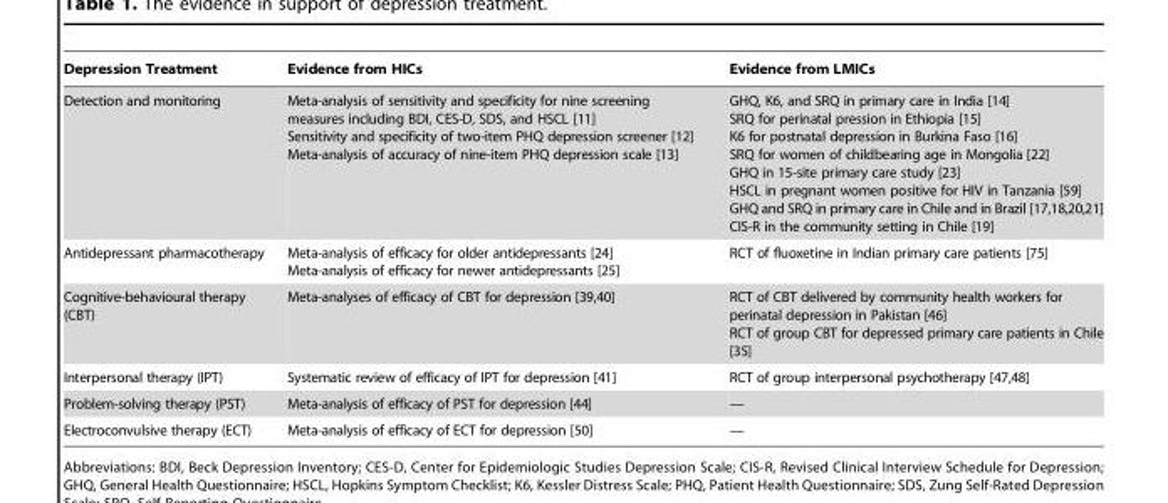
<table><thead><tr><td>Depression Treatment</td><td>Evidence from HICs</td><td>Evidence from LMICs</td></tr></thead><tbody><tr><td>Detection and monitoring</td><td>Meta-analysis of sensitivity and specificity for nine screening measures including BDI, CES-D, SDS, and HSCL [11] Sensitivity and specificity of two-item PHQ depression screener [12] Meta-analysis of accuracy of nine-item PHQ depression scale [13]</td><td>GHQ, K6, and SRQ in primary care in India [14] SRQ for perinatal pression in Ethiopia [15] K6 for postnatal depression in Burkina Faso [16] SRQ for women of childbearing age in Mongolia [22] GHQ in 15-site primary care study [23] HSCL in pregnant women positive for HIV in Tanzania [59] GHQ and SRQ in primary care in Chile and in Brazil [17,18,20,21] CIS-R in the community setting in Chile [19]</td></tr><tr><td>Antidepressant pharmacotherapy</td><td>Meta-analysis of efficacy for older antidepressants [24] Meta-analysis of efficacy for newer antidepressants [25]</td><td>RCT of fluoxetine in Indian primary care patients [75]</td></tr><tr><td>Cognitive-behavioural therapy (CBT)</td><td>Meta-analyses of efficacy of CBT for depression [39,40]</td><td>RCT of CBT delivered by community health workers for perinatal depression in Pakistan [46] RCT of group CBT for depressed primary care patients in Chile [35]</td></tr><tr><td>Interpersonal therapy (IPT)</td><td>Systematic review of efficacy of IPT for depression [41]</td><td>RCT of group interpersonal psychotherapy [47,48]</td></tr><tr><td>Problem-solving therapy (PST)</td><td>Meta-analysis of efficacy of PST for depression [44]</td><td>—</td></tr><tr><td>Electroconvulsive therapy (ECT)</td><td>Meta-analysis of efficacy of ECT for depression [50]</td><td>—</td></tr></tbody></table>